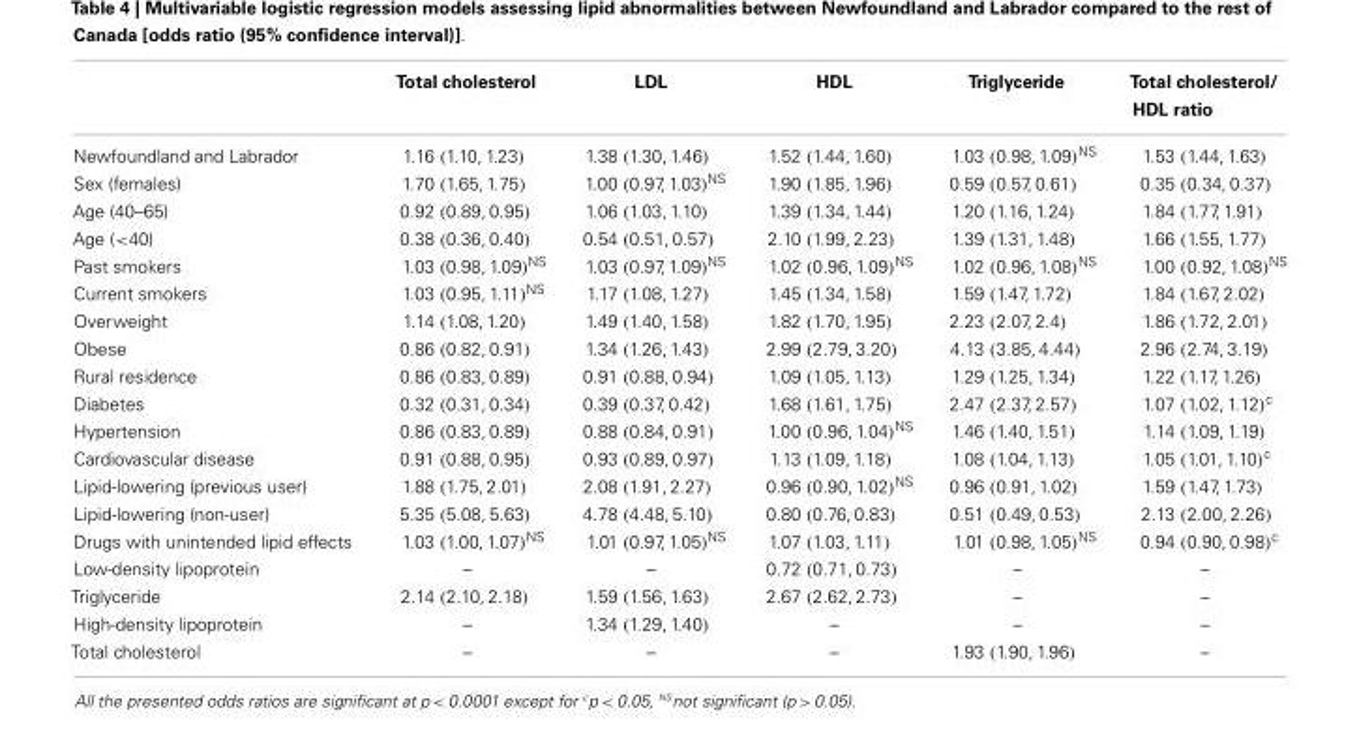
<table><thead><tr><td></td><td>Total cholesterol</td><td>LDL</td><td>HDL</td><td>Triglyceride</td><td>Total cholesterol/ HDL ratio</td></tr></thead><tbody><tr><td>Newfoundland and Labrador</td><td>1.16 (1.10, 1.23)</td><td>1.38 (1.30, 1.46)</td><td>1.52 (1.44, 1.60)</td><td>1.03 (0.98, 1.09)<sup>NS</sup></td><td>1.53 (1.44, 1.63)</td></tr><tr><td>Sex (females)</td><td>1.70 (1.65, 1.75)</td><td>1.00 (0.97, 1.03)<sup>NS</sup></td><td>1.90 (1.85, 1.96)</td><td>0.59 (0.57, 0.61)</td><td>0.35 (0.34, 0.37)</td></tr><tr><td>Age (40–65)</td><td>0.92 (0.89, 0.95)</td><td>1.06 (1.03, 1.10)</td><td>1.39 (1.34, 1.44)</td><td>1.20 (1.16, 1.24)</td><td>1.84 (1.77, 1.91)</td></tr><tr><td>Age (&lt;40)</td><td>0.38 (0.36, 0.40)</td><td>0.54 (0.51, 0.57)</td><td>2.10 (1.99, 2.23)</td><td>1.39 (1.31, 1.48)</td><td>1.66 (1.55, 1.77)</td></tr><tr><td>Past smokers</td><td>1.03 (0.98, 1.09)<sup>NS</sup></td><td>1.03 (0.97, 1.09)<sup>NS</sup></td><td>1.02 (0.96, 1.09)<sup>NS</sup></td><td>1.02 (0.96, 1.08)<sup>NS</sup></td><td>1.00 (0.92, 1.08)<sup>NS</sup></td></tr><tr><td>Current smokers</td><td>1.03 (0.95, 1.11)<sup>NS</sup></td><td>1.17 (1.08, 1.27)</td><td>1.45 (1.34, 1.58)</td><td>1.59 (1.47, 1.72)</td><td>1.84 (1.67, 2.02)</td></tr><tr><td>Overweight</td><td>1.14 (1.08, 1.20)</td><td>1.49 (1.40, 1.58)</td><td>1.82 (1.70, 1.95)</td><td>2.23 (2.07, 2.4)</td><td>1.86 (1.72, 2.01)</td></tr><tr><td>Obese</td><td>0.86 (0.82, 0.91)</td><td>1.34 (1.26, 1.43)</td><td>2.99 (2.79, 3.20)</td><td>4.13 (3.85, 4.44)</td><td>2.96 (2.74, 3.19)</td></tr><tr><td>Rural residence</td><td>0.86 (0.83, 0.89)</td><td>0.91 (0.88, 0.94)</td><td>1.09 (1.05, 1.13)</td><td>1.29 (1.25, 1.34)</td><td>1.22 (1.17, 1.26)</td></tr><tr><td>Diabetes</td><td>0.32 (0.31, 0.34)</td><td>0.39 (0.37, 0.42)</td><td>1.68 (1.61, 1.75)</td><td>2.47 (2.37, 2.57)</td><td>1.07 (1.02, 1.12)<sup>c</sup></td></tr><tr><td>Hypertension</td><td>0.86 (0.83, 0.89)</td><td>0.88 (0.84, 0.91)</td><td>1.00 (0.96, 1.04)<sup>NS</sup></td><td>1.46 (1.40, 1.51)</td><td>1.14 (1.09, 1.19)</td></tr><tr><td>Cardiovascular disease</td><td>0.91 (0.88, 0.95)</td><td>0.93 (0.89, 0.97)</td><td>1.13 (1.09, 1.18)</td><td>1.08 (1.04, 1.13)</td><td>1.05 (1.01, 1.10)<sup>c</sup></td></tr><tr><td>Lipid-lowering (previous user)</td><td>1.88 (1.75, 2.01)</td><td>2.08 (1.91, 2.27)</td><td>0.96 (0.90, 1.02)<sup>NS</sup></td><td>0.96 (0.91, 1.02)</td><td>1.59 (1.47, 1.73)</td></tr><tr><td>Lipid-lowering (non-user)</td><td>5.35 (5.08, 5.63)</td><td>4.78 (4.48, 5.10)</td><td>0.80 (0.76, 0.83)</td><td>0.51 (0.49, 0.53)</td><td>2.13 (2.00, 2.26)</td></tr><tr><td>Drugs with unintended lipid effects</td><td>1.03 (1.00, 1.07)<sup>NS</sup></td><td>1.01 (0.97, 1.05)<sup>NS</sup></td><td>1.07 (1.03, 1.11)</td><td>1.01 (0.98, 1.05)<sup>NS</sup></td><td>0.94 (0.90, 0.98)<sup>c</sup></td></tr><tr><td>Low-density lipoprotein</td><td>–</td><td>–</td><td>0.72 (0.71, 0.73)</td><td>–</td><td>–</td></tr><tr><td>Triglyceride</td><td>2.14 (2.10, 2.18)</td><td>1.59 (1.56, 1.63)</td><td>2.67 (2.62, 2.73)</td><td>–</td><td>–</td></tr><tr><td>High-density lipoprotein</td><td>–</td><td>1.34 (1.29, 1.40)</td><td>–</td><td>–</td><td>–</td></tr><tr><td>Total cholesterol</td><td>–</td><td>–</td><td>–</td><td>1.93 (1.90, 1.96)</td><td>–</td></tr></tbody></table>